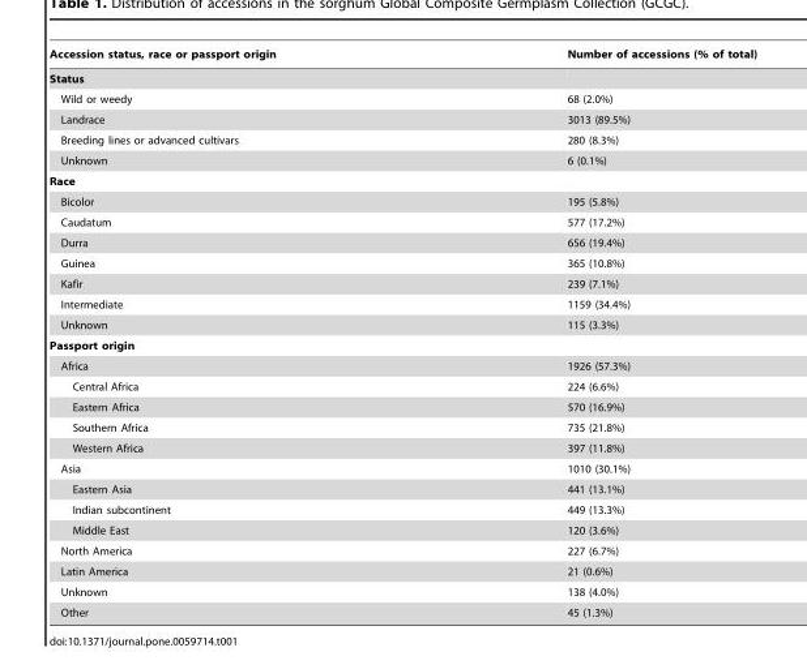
<table><thead><tr><td>Accession status, race or passport origin</td><td>Number of accessions (% of total)</td></tr></thead><tbody><tr><td colspan="2">Status</td></tr><tr><td>Wild or weedy</td><td>68 (2.0%)</td></tr><tr><td>Landrace</td><td>3013 (89.5%)</td></tr><tr><td>Breeding lines or advanced cultivars</td><td>280 (8.3%)</td></tr><tr><td>Unknown</td><td>6 (0.1%)</td></tr><tr><td colspan="2">Race</td></tr><tr><td>Bicolor</td><td>195 (5.8%)</td></tr><tr><td>Caudatum</td><td>577 (17.2%)</td></tr><tr><td>Durra</td><td>656 (19.4%)</td></tr><tr><td>Guinea</td><td>365 (10.8%)</td></tr><tr><td>Kafir</td><td>239 (7.1%)</td></tr><tr><td>Intermediate</td><td>1159 (34.4%)</td></tr><tr><td>Unknown</td><td>115 (3.3%)</td></tr><tr><td colspan="2">Passport origin</td></tr><tr><td>Africa</td><td>1926 (57.3%)</td></tr><tr><td>Central Africa</td><td>224 (6.6%)</td></tr><tr><td>Eastern Africa</td><td>570 (16.9%)</td></tr><tr><td>Southern Africa</td><td>735 (21.8%)</td></tr><tr><td>Western Africa</td><td>397 (11.8%)</td></tr><tr><td>Asia</td><td>1010 (30.1%)</td></tr><tr><td>Eastern Asia</td><td>441 (13.1%)</td></tr><tr><td>Indian subcontinent</td><td>449 (13.3%)</td></tr><tr><td>Middle East</td><td>120 (3.6%)</td></tr><tr><td>North America</td><td>227 (6.7%)</td></tr><tr><td>Latin America</td><td>21 (0.6%)</td></tr><tr><td>Unknown</td><td>138 (4.0%)</td></tr><tr><td>Other</td><td>45 (1.3%)</td></tr></tbody></table>